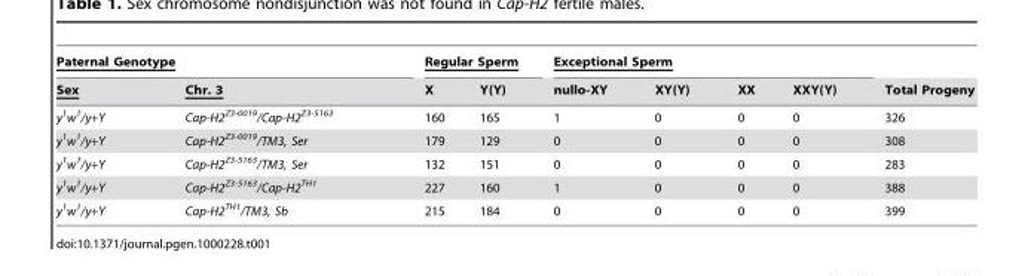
<table><thead><tr><td colspan="2">Paternal Genotype</td><td colspan="2">Regular Sperm</td><td colspan="4">Exceptional Sperm</td><td rowspan="2">Total Progeny</td></tr><tr><td>Sex</td><td>Chr. 3</td><td>X</td><td>Y(Y)</td><td>nullo-XY</td><td>XY(Y)</td><td>XX</td><td>XXY(Y)</td></tr></thead><tbody><tr><td>y<sup>1</sup>w<sup>1</sup>/y+Y</td><td>Cap-H2<sup>Z3-0019</sup>/Cap-H2<sup>Z3-5163</sup></td><td>160</td><td>165</td><td>1</td><td>0</td><td>0</td><td>0</td><td>326</td></tr><tr><td>y<sup>1</sup>w<sup>1</sup>/y+Y</td><td>Cap-H2<sup>Z3-0019</sup>/TM3, Ser</td><td>179</td><td>129</td><td>0</td><td>0</td><td>0</td><td>0</td><td>308</td></tr><tr><td>y<sup>1</sup>w<sup>1</sup>/y+Y</td><td>Cap-H2<sup>Z3-5163</sup>/TM3, Ser</td><td>132</td><td>151</td><td>0</td><td>0</td><td>0</td><td>0</td><td>283</td></tr><tr><td>y<sup>1</sup>w<sup>1</sup>/y+Y</td><td>Cap-H2<sup>Z3-5163</sup>/Cap-H2<sup>TH1</sup></td><td>227</td><td>160</td><td>1</td><td>0</td><td>0</td><td>0</td><td>388</td></tr><tr><td>y<sup>1</sup>w<sup>1</sup>/y+Y</td><td>Cap-H2<sup>TH1</sup>/TM3, Sb</td><td>215</td><td>184</td><td>0</td><td>0</td><td>0</td><td>0</td><td>399</td></tr></tbody></table>